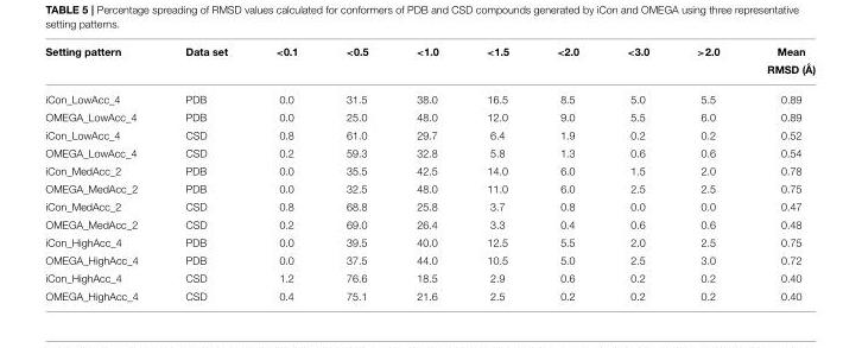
<table><thead><tr><td rowspan="2">Setting pattern</td><td rowspan="2">Data set</td><td rowspan="2">&lt;0.1</td><td rowspan="2">&lt;0.5</td><td rowspan="2">&lt;1.0</td><td rowspan="2">&lt;1.5</td><td rowspan="2">&lt;2.0</td><td rowspan="2">&lt;3.0</td><td rowspan="2">&gt;2.0</td><td rowspan="2">Mean RMSD (Å)</td></tr><tr></tr></thead><tbody><tr><td>iCon_LowAcc_4</td><td>PDB</td><td>0.0</td><td>31.5</td><td>38.0</td><td>16.5</td><td>8.5</td><td>5.0</td><td>5.5</td><td>0.89</td></tr><tr><td>OMEGA_LowAcc_4</td><td>PDB</td><td>0.0</td><td>25.0</td><td>48.0</td><td>12.0</td><td>9.0</td><td>5.5</td><td>6.0</td><td>0.89</td></tr><tr><td>iCon_LowAcc_4</td><td>CSD</td><td>0.8</td><td>61.0</td><td>29.7</td><td>6.4</td><td>1.9</td><td>0.2</td><td>0.2</td><td>0.52</td></tr><tr><td>OMEGA_LowAcc_4</td><td>CSD</td><td>0.2</td><td>59.3</td><td>32.8</td><td>5.8</td><td>1.3</td><td>0.6</td><td>0.6</td><td>0.54</td></tr><tr><td>iCon_MedAcc_2</td><td>PDB</td><td>0.0</td><td>35.5</td><td>42.5</td><td>14.0</td><td>6.0</td><td>1.5</td><td>2.0</td><td>0.78</td></tr><tr><td>OMEGA_MedAcc_2</td><td>PDB</td><td>0.0</td><td>32.5</td><td>48.0</td><td>11.0</td><td>6.0</td><td>2.5</td><td>2.5</td><td>0.75</td></tr><tr><td>iCon_MedAcc_2</td><td>CSD</td><td>0.8</td><td>68.8</td><td>25.8</td><td>3.7</td><td>0.8</td><td>0.0</td><td>0.0</td><td>0.47</td></tr><tr><td>OMEGA_MedAcc_2</td><td>CSD</td><td>0.2</td><td>69.0</td><td>26.4</td><td>3.3</td><td>0.4</td><td>0.6</td><td>0.6</td><td>0.48</td></tr><tr><td>iCon_HighAcc_4</td><td>PDB</td><td>0.0</td><td>39.5</td><td>40.0</td><td>12.5</td><td>5.5</td><td>2.0</td><td>2.5</td><td>0.75</td></tr><tr><td>OMEGA_HighAcc_4</td><td>PDB</td><td>0.0</td><td>37.5</td><td>44.0</td><td>10.5</td><td>5.0</td><td>2.5</td><td>3.0</td><td>0.72</td></tr><tr><td>iCon_HighAcc_4</td><td>CSD</td><td>1.2</td><td>76.6</td><td>18.5</td><td>2.9</td><td>0.6</td><td>0.2</td><td>0.2</td><td>0.40</td></tr><tr><td>OMEGA_HighAcc_4</td><td>CSD</td><td>0.4</td><td>75.1</td><td>21.6</td><td>2.5</td><td>0.2</td><td>0.2</td><td>0.2</td><td>0.40</td></tr></tbody></table>